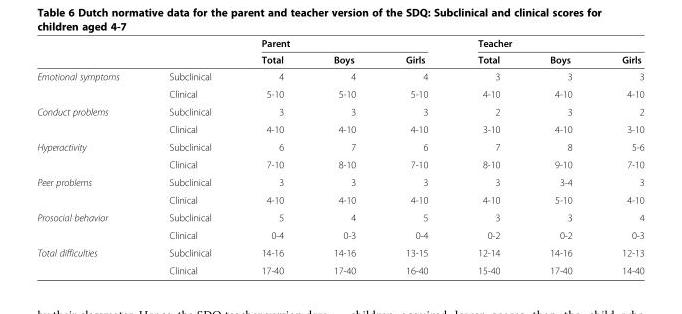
<table><thead><tr><td rowspan="2"></td><td rowspan="2"></td><td colspan="3">Parent</td><td colspan="3">Teacher</td></tr><tr><td>Total</td><td>Boys</td><td>Girls</td><td>Total</td><td>Boys</td><td>Girls</td></tr></thead><tbody><tr><td rowspan="2">Emotional symptoms</td><td>Subclinical</td><td>4</td><td>4</td><td>4</td><td>3</td><td>3</td><td>3</td></tr><tr><td>Clinical</td><td>5-10</td><td>5-10</td><td>5-10</td><td>4-10</td><td>4-10</td><td>4-10</td></tr><tr><td rowspan="2">Conduct problems</td><td>Subclinical</td><td>3</td><td>3</td><td>3</td><td>2</td><td>3</td><td>2</td></tr><tr><td>Clinical</td><td>4-10</td><td>4-10</td><td>4-10</td><td>3-10</td><td>4-10</td><td>3-10</td></tr><tr><td rowspan="2">Hyperactivity</td><td>Subclinical</td><td>6</td><td>7</td><td>6</td><td>7</td><td>8</td><td>5-6</td></tr><tr><td>Clinical</td><td>7-10</td><td>8-10</td><td>7-10</td><td>8-10</td><td>9-10</td><td>7-10</td></tr><tr><td rowspan="2">Peer problems</td><td>Subclinical</td><td>3</td><td>3</td><td>3</td><td>3</td><td>3-4</td><td>3</td></tr><tr><td>Clinical</td><td>4-10</td><td>4-10</td><td>4-10</td><td>4-10</td><td>5-10</td><td>4-10</td></tr><tr><td rowspan="2">Prosocial behavior</td><td>Subclinical</td><td>5</td><td>4</td><td>5</td><td>3</td><td>3</td><td>4</td></tr><tr><td>Clinical</td><td>0-4</td><td>0-3</td><td>0-4</td><td>0-2</td><td>0-2</td><td>0-3</td></tr><tr><td rowspan="2">Total difficulties</td><td>Subclinical</td><td>14-16</td><td>14-16</td><td>13-15</td><td>12-14</td><td>14-16</td><td>12-13</td></tr><tr><td>Clinical</td><td>17-40</td><td>17-40</td><td>16-40</td><td>15-40</td><td>17-40</td><td>14-40</td></tr></tbody></table>